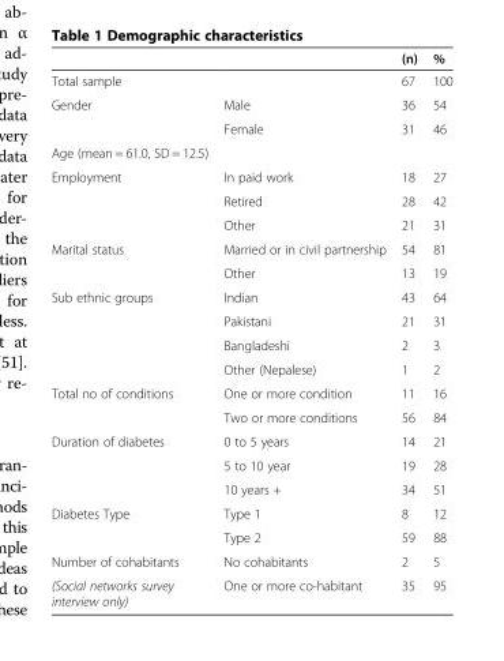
<table><thead><tr><td></td><td></td><td>(n)</td><td>%</td></tr></thead><tbody><tr><td>Total sample</td><td></td><td>67</td><td>100</td></tr><tr><td rowspan="2">Gender</td><td>Male</td><td>36</td><td>54</td></tr><tr><td>Female</td><td>31</td><td>46</td></tr><tr><td colspan="4">Age (mean = 61.0, SD = 12.5)</td></tr><tr><td rowspan="3">Employment</td><td>In paid work</td><td>18</td><td>27</td></tr><tr><td>Retired</td><td>28</td><td>42</td></tr><tr><td>Other</td><td>21</td><td>31</td></tr><tr><td rowspan="2">Marital status</td><td>Married or in civil partnership</td><td>54</td><td>81</td></tr><tr><td>Other</td><td>13</td><td>19</td></tr><tr><td rowspan="4">Sub ethnic groups</td><td>Indian</td><td>43</td><td>64</td></tr><tr><td>Pakistani</td><td>21</td><td>31</td></tr><tr><td>Bangladeshi</td><td>2</td><td>3</td></tr><tr><td>Other (Nepalese)</td><td>1</td><td>2</td></tr><tr><td rowspan="2">Total no of conditions</td><td>One or more condition</td><td>11</td><td>16</td></tr><tr><td>Two or more conditions</td><td>56</td><td>84</td></tr><tr><td rowspan="3">Duration of diabetes</td><td>0 to 5 years</td><td>14</td><td>21</td></tr><tr><td>5 to 10 year</td><td>19</td><td>28</td></tr><tr><td>10 years +</td><td>34</td><td>51</td></tr><tr><td rowspan="2">Diabetes Type</td><td>Type 1</td><td>8</td><td>12</td></tr><tr><td>Type 2</td><td>59</td><td>88</td></tr><tr><td>Number of cohabitants</td><td>No cohabitants</td><td>2</td><td>5</td></tr><tr><td>(Social networks survey interview only)</td><td>One or more co-habitant</td><td>35</td><td>95</td></tr></tbody></table>